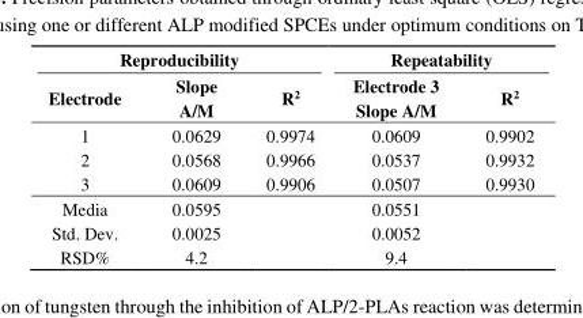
<table><thead><tr><td colspan="3">Reproducibility</td><td colspan="2">Repeatability</td></tr><tr><td>Electrode</td><td>Slope A/M</td><td>R<sup>2</sup></td><td>Electrode 3 Slope A/M</td><td>R<sup>2</sup></td></tr></thead><tbody><tr><td>1</td><td>0.0629</td><td>0.9974</td><td>0.0609</td><td>0.9902</td></tr><tr><td>2</td><td>0.0568</td><td>0.9966</td><td>0.0537</td><td>0.9932</td></tr><tr><td>3</td><td>0.0609</td><td>0.9906</td><td>0.0507</td><td>0.9930</td></tr><tr><td>Media</td><td>0.0595</td><td></td><td>0.0551</td><td></td></tr><tr><td>Std. Dev.</td><td>0.0025</td><td></td><td>0.0052</td><td></td></tr><tr><td>RSD%</td><td>4.2</td><td></td><td>9.4</td><td></td></tr></tbody></table>